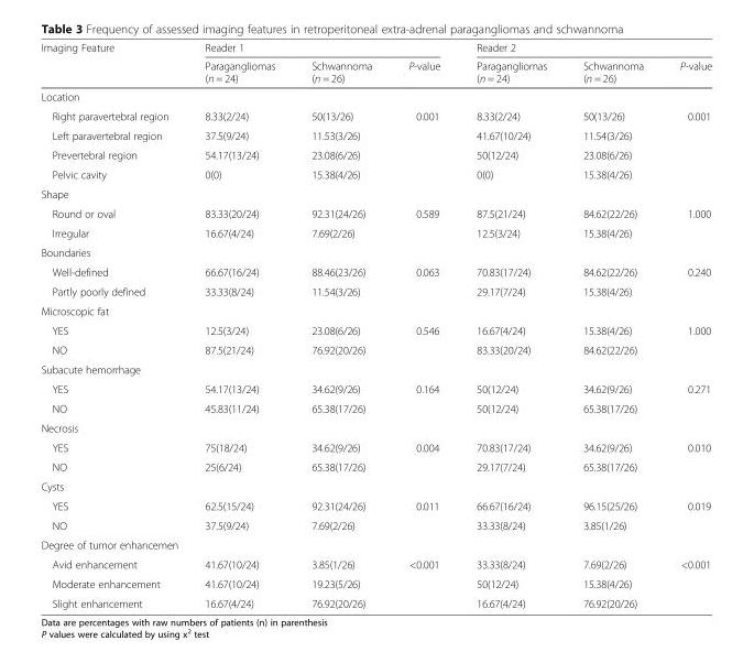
<table><thead><tr><td rowspan="2">Imaging Feature</td><td colspan="3">Reader 1</td><td colspan="3">Reader 2</td></tr><tr><td>Paragangliomas (n = 24)</td><td>Schwannoma (n = 26)</td><td>P-value</td><td>Paragangliomas (n = 24)</td><td>Schwannoma (n = 26)</td><td>P-value</td></tr></thead><tbody><tr><td colspan="7">Location</td></tr><tr><td>Right paravertebral region</td><td>8.33(2/24)</td><td>50(13/26)</td><td rowspan="4">0.001</td><td>8.33(2/24)</td><td>50(13/26)</td><td rowspan="4">0.001</td></tr><tr><td>Left paravertebral region</td><td>37.5(9/24)</td><td>11.53(3/26)</td><td>41.67(10/24)</td><td>11.54(3/26)</td></tr><tr><td>Prevertebral region</td><td>54.17(13/24)</td><td>23.08(6/26)</td><td>50(12/24)</td><td>23.08(6/26)</td></tr><tr><td>Pelvic cavity</td><td>0(0)</td><td>15.38(4/26)</td><td>0(0)</td><td>15.38(4/26)</td></tr><tr><td colspan="7">Shape</td></tr><tr><td>Round or oval</td><td>83.33(20/24)</td><td>92.31(24/26)</td><td rowspan="2">0.589</td><td>87.5(21/24)</td><td>84.62(22/26)</td><td rowspan="2">1.000</td></tr><tr><td>Irregular</td><td>16.67(4/24)</td><td>7.69(2/26)</td><td>12.5(3/24)</td><td>15.38(4/26)</td></tr><tr><td colspan="7">Boundaries</td></tr><tr><td>Well-defined</td><td>66.67(16/24)</td><td>88.46(23/26)</td><td rowspan="2">0.063</td><td>70.83(17/24)</td><td>84.62(22/26)</td><td rowspan="2">0.240</td></tr><tr><td>Partly poorly defined</td><td>33.33(8/24)</td><td>11.54(3/26)</td><td>29.17(7/24)</td><td>15.38(4/26)</td></tr><tr><td colspan="7">Microscopic fat</td></tr><tr><td>YES</td><td>12.5(3/24)</td><td>23.08(6/26)</td><td rowspan="2">0.546</td><td>16.67(4/24)</td><td>15.38(4/26)</td><td rowspan="2">1.000</td></tr><tr><td>NO</td><td>87.5(21/24)</td><td>76.92(20/26)</td><td>83.33(20/24)</td><td>84.62(22/26)</td></tr><tr><td colspan="7">Subacute hemorrhage</td></tr><tr><td>YES</td><td>54.17(13/24)</td><td>34.62(9/26)</td><td rowspan="2">0.164</td><td>50(12/24)</td><td>34.62(9/26)</td><td rowspan="2">0.271</td></tr><tr><td>NO</td><td>45.83(11/24)</td><td>65.38(17/26)</td><td>50(12/24)</td><td>65.38(17/26)</td></tr><tr><td colspan="7">Necrosis</td></tr><tr><td>YES</td><td>75(18/24)</td><td>34.62(9/26)</td><td rowspan="2">0.004</td><td>70.83(17/24)</td><td>34.62(9/26)</td><td rowspan="2">0.010</td></tr><tr><td>NO</td><td>25(6/24)</td><td>65.38(17/26)</td><td>29.17(7/24)</td><td>65.38(17/26)</td></tr><tr><td colspan="7">Cysts</td></tr><tr><td>YES</td><td>62.5(15/24)</td><td>92.31(24/26)</td><td rowspan="2">0.011</td><td>66.67(16/24)</td><td>96.15(25/26)</td><td rowspan="2">0.019</td></tr><tr><td>NO</td><td>37.5(9/24)</td><td>7.69(2/26)</td><td>33.33(8/24)</td><td>3.85(1/26)</td></tr><tr><td colspan="7">Degree of tumor enhancemen</td></tr><tr><td>Avid enhancement</td><td>41.67(10/24)</td><td>3.85(1/26)</td><td rowspan="3">&lt;0.001</td><td>33.33(8/24)</td><td>7.69(2/26)</td><td rowspan="3">&lt;0.001</td></tr><tr><td>Moderate enhancement</td><td>41.67(10/24)</td><td>19.23(5/26)</td><td>50(12/24)</td><td>15.38(4/26)</td></tr><tr><td>Slight enhancement</td><td>16.67(4/24)</td><td>76.92(20/26)</td><td>16.67(4/24)</td><td>76.92(20/26)</td></tr></tbody></table>